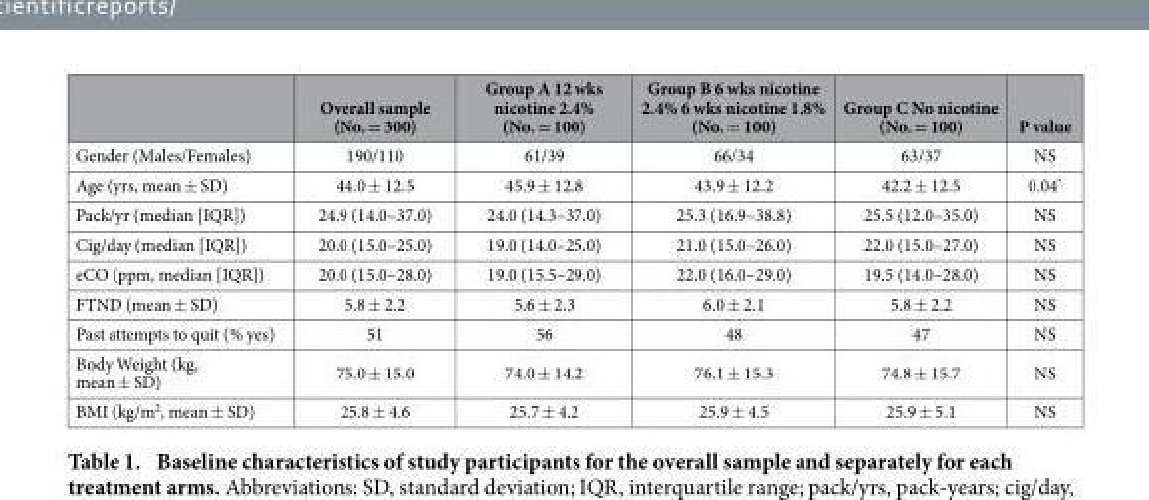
<table><thead><tr><td></td><td>Overall sample (No. = 300)</td><td>Group A 12 wks nicotine 2.4% (No. = 100)</td><td>Group B 6 wks nicotine 2.4% 6 wks nicotine 1.8% (No. = 100)</td><td>Group C No nicotine (No. = 100)</td><td>P value</td></tr></thead><tbody><tr><td>Gender (Males/Females)</td><td>190/110</td><td>61/39</td><td>66/34</td><td>63/37</td><td>NS</td></tr><tr><td>Age (yrs, mean ± SD)</td><td>44.0 ± 12.5</td><td>45.9 ± 12.8</td><td>43.9 ± 12.2</td><td>42.2 ± 12.5</td><td>0.04*</td></tr><tr><td>Pack/yr (median [IQR])</td><td>24.9 (14.0–37.0)</td><td>24.0 (14.3–37.0)</td><td>25.3 (16.9–38.8)</td><td>25.5 (12.0–35.0)</td><td>NS</td></tr><tr><td>Cig/day (median [IQR])</td><td>20.0 (15.0–25.0)</td><td>19.0 (14.0–25.0)</td><td>21.0 (15.0–26.0)</td><td>22.0 (15.0–27.0)</td><td>NS</td></tr><tr><td>eCO (ppm, median [IQR])</td><td>20.0 (15.0–28.0)</td><td>19.0 (15.5–29.0)</td><td>22.0 (16.0–29.0)</td><td>19.5 (14.0–28.0)</td><td>NS</td></tr><tr><td>FTND (mean ± SD)</td><td>5.8 ± 2.2</td><td>5.6 ± 2.3</td><td>6.0 ± 2.1</td><td>5.8 ± 2.2</td><td>NS</td></tr><tr><td>Past attempts to quit (% yes)</td><td>51</td><td>56</td><td>48</td><td>47</td><td>NS</td></tr><tr><td>Body Weight (kg, mean ± SD)</td><td>75.0 ± 15.0</td><td>74.0 ± 14.2</td><td>76.1 ± 15.3</td><td>74.8 ± 15.7</td><td>NS</td></tr><tr><td>BMI (kg/m<sup>2</sup>, mean ± SD)</td><td>25.8 ± 4.6</td><td>25.7 ± 4.2</td><td>25.9 ± 4.5</td><td>25.9 ± 5.1</td><td>NS</td></tr></tbody></table>